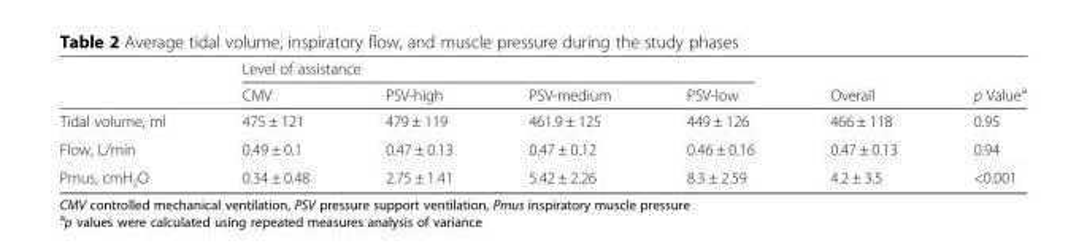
<table><thead><tr><td rowspan="2"></td><td colspan="4">Level of assistance</td><td rowspan="2">Overall</td><td rowspan="2">p Value<sup>a</sup></td></tr><tr><td>CMV</td><td>PSV-high</td><td>PSV-medium</td><td>PSV-low</td></tr></thead><tbody><tr><td>Tidal volume, ml</td><td>475 ± 121</td><td>479 ± 119</td><td>461.9 ± 125</td><td>449 ± 126</td><td>466 ± 118</td><td>0.95</td></tr><tr><td>Flow, L/min</td><td>0.49 ± 0.1</td><td>0.47 ± 0.13</td><td>0.47 ± 0.12</td><td>0.46 ± 0.16</td><td>0.47 ± 0.13</td><td>0.94</td></tr><tr><td>Pmus, cmH<sub>2</sub>O</td><td>0.34 ± 0.48</td><td>2.75 ± 1.41</td><td>5.42 ± 2.26</td><td>8.3 ± 2.59</td><td>4.2 ± 3.5</td><td>&lt;0.001</td></tr></tbody></table>